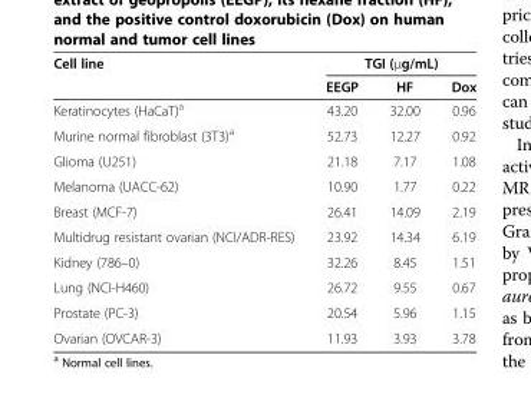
<table><thead><tr><td rowspan="2">Cell line</td><td colspan="3">TGI (μg/mL)</td></tr><tr><td>EEGP</td><td>HF</td><td>Dox</td></tr></thead><tbody><tr><td>Keratinocytes (HaCaT)<sup>a</sup></td><td>43.20</td><td>32.00</td><td>0.96</td></tr><tr><td>Murine normal fibroblast (3T3)<sup>a</sup></td><td>52.73</td><td>12.27</td><td>0.92</td></tr><tr><td>Glioma (U251)</td><td>21.18</td><td>7.17</td><td>1.08</td></tr><tr><td>Melanoma (UACC-62)</td><td>10.90</td><td>1.77</td><td>0.22</td></tr><tr><td>Breast (MCF-7)</td><td>26.41</td><td>14.09</td><td>2.19</td></tr><tr><td>Multidrug resistant ovarian (NCI/ADR-RES)</td><td>23.92</td><td>14.34</td><td>6.19</td></tr><tr><td>Kidney (786–0)</td><td>32.26</td><td>8.45</td><td>1.51</td></tr><tr><td>Lung (NCI-H460)</td><td>26.72</td><td>9.55</td><td>0.67</td></tr><tr><td>Prostate (PC-3)</td><td>20.54</td><td>5.96</td><td>1.15</td></tr><tr><td>Ovarian (OVCAR-3)</td><td>11.93</td><td>3.93</td><td>3.78</td></tr></tbody></table>